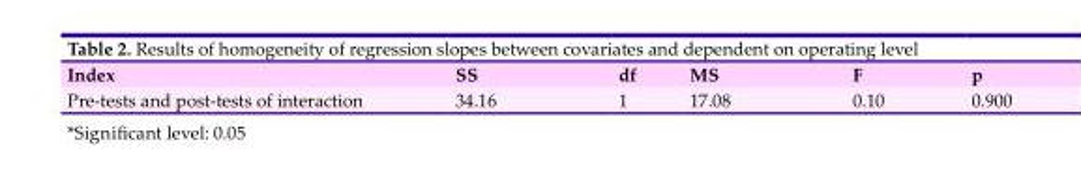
<table><thead><tr><td>Index</td><td>SS</td><td>df</td><td>MS</td><td>F</td><td>p</td></tr></thead><tbody><tr><td>Pre-tests and post-tests of interaction</td><td>34.16</td><td>1</td><td>17.08</td><td>0.10</td><td>0.900</td></tr></tbody></table>